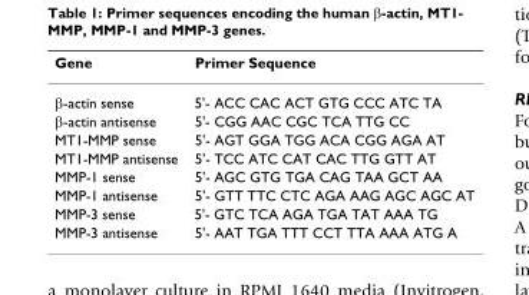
<table><thead><tr><td>Gene</td><td>Primer Sequence</td></tr></thead><tbody><tr><td>β-actin sense</td><td>5&#x27;- ACC CAC ACT GTG CCC ATC TA</td></tr><tr><td>β-actin antisense</td><td>5&#x27;- CGG AAC CGC TCA TTG CC</td></tr><tr><td>MT1-MMP sense</td><td>5&#x27;- AGT GGA TGG ACA CGG AGA AT</td></tr><tr><td>MT1-MMP antisense</td><td>5&#x27;- TCC ATC CAT CAC TTG GTT AT</td></tr><tr><td>MMP-1 sense</td><td>5&#x27;- AGC GTG TGA CAG TAA GCT AA</td></tr><tr><td>MMP-1 antisense</td><td>5&#x27;- GTT TTC CTC AGA AAG AGC AGC AT</td></tr><tr><td>MMP-3 sense</td><td>5&#x27;- GTC TCA AGA TGA TAT AAA TG</td></tr><tr><td>MMP-3 antisense</td><td>5&#x27;- AAT TGA TTT CCT TTA AAA ATG A</td></tr></tbody></table>